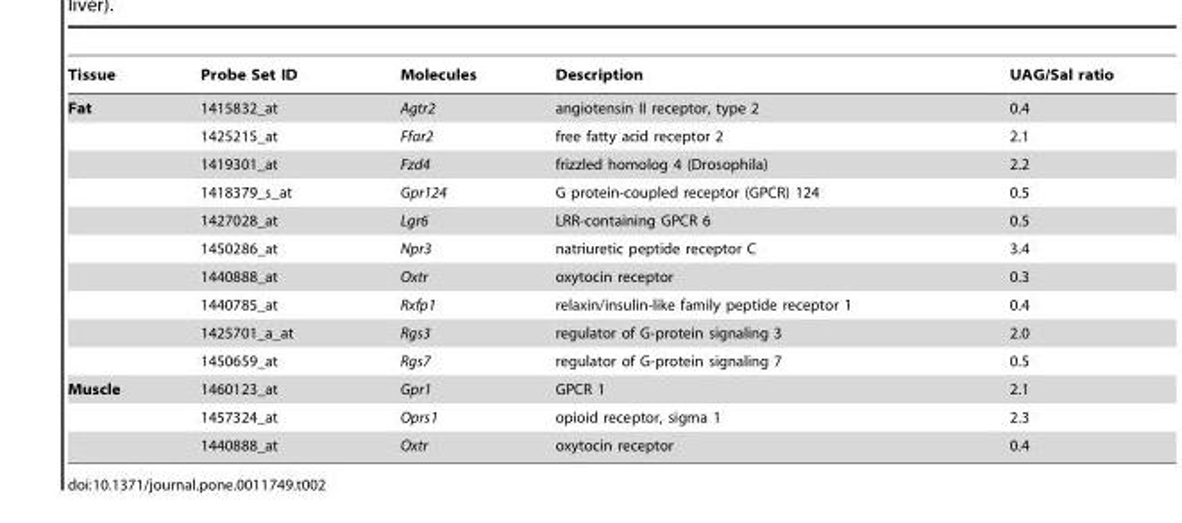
<table><thead><tr><td>Tissue</td><td>Probe Set ID</td><td>Molecules</td><td>Description</td><td>UAG/Sal ratio</td></tr></thead><tbody><tr><td rowspan="10">Fat</td><td>1415832_at</td><td>Agtr2</td><td>angiotensin II receptor, type 2</td><td>0.4</td></tr><tr><td>1425215_at</td><td>Ffar2</td><td>free fatty acid receptor 2</td><td>2.1</td></tr><tr><td>1419301_at</td><td>Fzd4</td><td>frizzled homolog 4 (Drosophila)</td><td>2.2</td></tr><tr><td>1418379_s_at</td><td>Gpr124</td><td>G protein-coupled receptor (GPCR) 124</td><td>0.5</td></tr><tr><td>1427028_at</td><td>Lgr6</td><td>LRR-containing GPCR 6</td><td>0.5</td></tr><tr><td>1450286_at</td><td>Npr3</td><td>natriuretic peptide receptor C</td><td>3.4</td></tr><tr><td>1440888_at</td><td>Oxtr</td><td>oxytocin receptor</td><td>0.3</td></tr><tr><td>1440785_at</td><td>Rxfp1</td><td>relaxin/insulin-like family peptide receptor 1</td><td>0.4</td></tr><tr><td>1425701_a_at</td><td>Rgs3</td><td>regulator of G-protein signaling 3</td><td>2.0</td></tr><tr><td>1450659_at</td><td>Rgs7</td><td>regulator of G-protein signaling 7</td><td>0.5</td></tr><tr><td rowspan="3">Muscle</td><td>1460123_at</td><td>Gpr1</td><td>GPCR 1</td><td>2.1</td></tr><tr><td>1457324_at</td><td>Oprs1</td><td>opioid receptor, sigma 1</td><td>2.3</td></tr><tr><td>1440888_at</td><td>Oxtr</td><td>oxytocin receptor</td><td>0.4</td></tr></tbody></table>